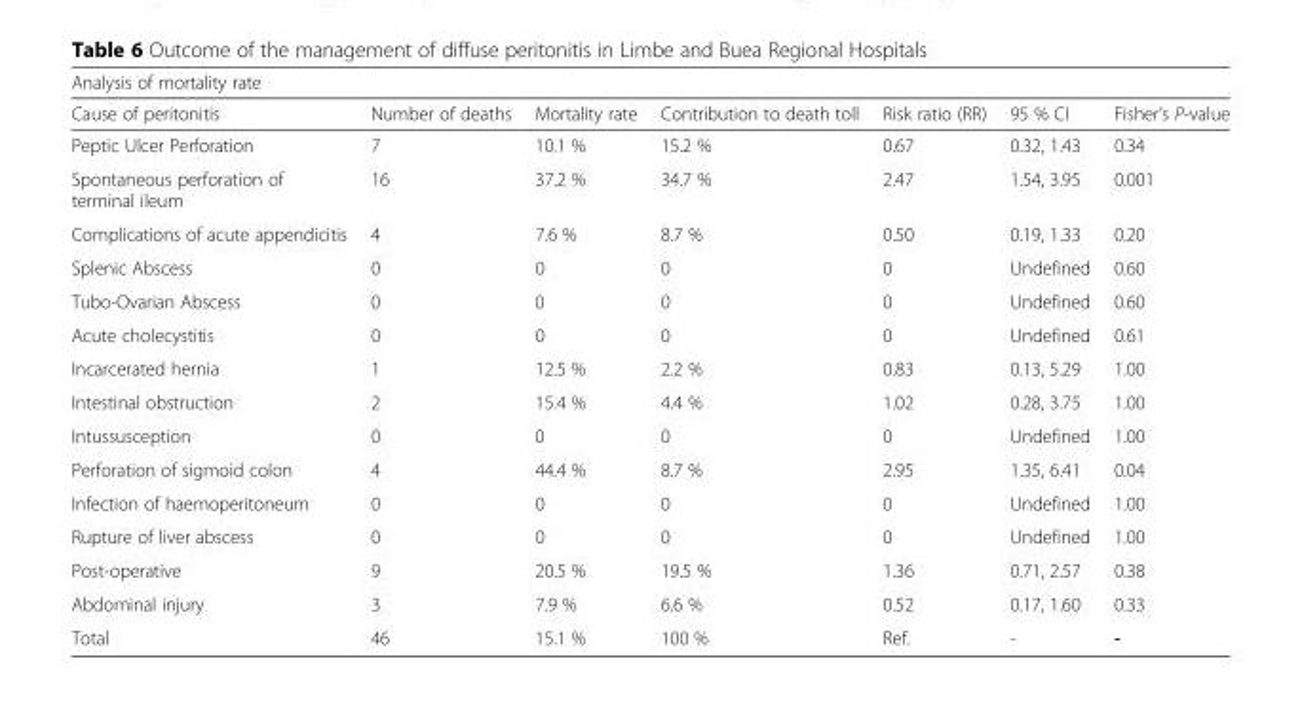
<table><thead><tr><td colspan="7">Analysis of mortality rate</td></tr><tr><td>Cause of peritonitis</td><td>Number of deaths</td><td>Mortality rate</td><td>Contribution to death toll</td><td>Risk ratio (RR)</td><td>95 % CI</td><td>Fisher’s P-value</td></tr></thead><tbody><tr><td>Peptic Ulcer Perforation</td><td>7</td><td>10.1 %</td><td>15.2 %</td><td>0.67</td><td>0.32, 1.43</td><td>0.34</td></tr><tr><td>Spontaneous perforation of terminal ileum</td><td>16</td><td>37.2 %</td><td>34.7 %</td><td>2.47</td><td>1.54, 3.95</td><td>0.001</td></tr><tr><td>Complications of acute appendicitis</td><td>4</td><td>7.6 %</td><td>8.7 %</td><td>0.50</td><td>0.19, 1.33</td><td>0.20</td></tr><tr><td>Splenic Abscess</td><td>0</td><td>0</td><td>0</td><td>0</td><td>Undefined</td><td>0.60</td></tr><tr><td>Tubo-Ovarian Abscess</td><td>0</td><td>0</td><td>0</td><td>0</td><td>Undefined</td><td>0.60</td></tr><tr><td>Acute cholecystitis</td><td>0</td><td>0</td><td>0</td><td>0</td><td>Undefined</td><td>0.61</td></tr><tr><td>Incarcerated hernia</td><td>1</td><td>12.5 %</td><td>2.2 %</td><td>0.83</td><td>0.13, 5.29</td><td>1.00</td></tr><tr><td>Intestinal obstruction</td><td>2</td><td>15.4 %</td><td>4.4 %</td><td>1.02</td><td>0.28, 3.75</td><td>1.00</td></tr><tr><td>Intussusception</td><td>0</td><td>0</td><td>0</td><td>0</td><td>Undefined</td><td>1.00</td></tr><tr><td>Perforation of sigmoid colon</td><td>4</td><td>44.4 %</td><td>8.7 %</td><td>2.95</td><td>1.35, 6.41</td><td>0.04</td></tr><tr><td>Infection of haemoperitoneum</td><td>0</td><td>0</td><td>0</td><td>0</td><td>Undefined</td><td>1.00</td></tr><tr><td>Rupture of liver abscess</td><td>0</td><td>0</td><td>0</td><td>0</td><td>Undefined</td><td>1.00</td></tr><tr><td>Post-operative</td><td>9</td><td>20.5 %</td><td>19.5 %</td><td>1.36</td><td>0.71, 2.57</td><td>0.38</td></tr><tr><td>Abdominal injury</td><td>3</td><td>7.9 %</td><td>6.6 %</td><td>0.52</td><td>0.17, 1.60</td><td>0.33</td></tr><tr><td>Total</td><td>46</td><td>15.1 %</td><td>100 %</td><td>Ref.</td><td>-</td><td>-</td></tr></tbody></table>